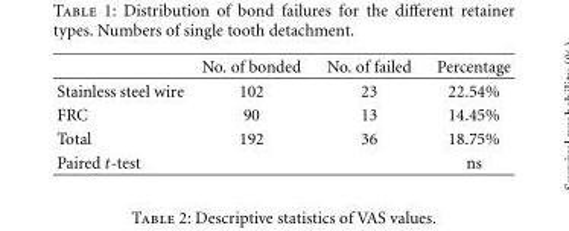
<table><thead><tr><td></td><td>No. of bonded</td><td>No. of failed</td><td>Percentage</td></tr></thead><tbody><tr><td>Stainless steel wire</td><td>102</td><td>23</td><td>22.54%</td></tr><tr><td>FRC</td><td>90</td><td>13</td><td>14.45%</td></tr><tr><td>Total</td><td>192</td><td>36</td><td>18.75%</td></tr><tr><td>Paired t-test</td><td></td><td></td><td>ns</td></tr></tbody></table>